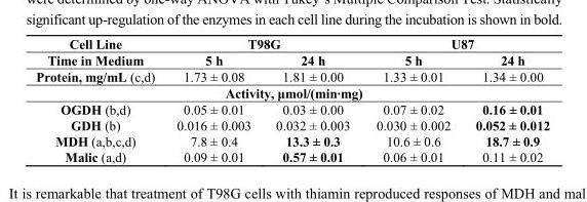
<table><thead><tr><td rowspan="2">Cell Line Time in Medium</td><td colspan="2">T98G</td><td colspan="2">U87</td></tr><tr><td>5 h</td><td>24 h</td><td>5 h</td><td>24 h</td></tr></thead><tbody><tr><td>Protein, mg/mL (c,d)</td><td>1.73 ± 0.08</td><td>1.81 ± 0.00</td><td>1.33 ± 0.01</td><td>1.34 ± 0.00</td></tr><tr><td colspan="5">Activity, μmol/(min·mg)</td></tr><tr><td>OGDH (b,d)</td><td>0.05 ± 0.01</td><td>0.03 ± 0.00</td><td>0.07 ± 0.02</td><td>0.16 ± 0.01</td></tr><tr><td>GDH (b)</td><td>0.016 ± 0.003</td><td>0.032 ± 0.003</td><td>0.030 ± 0.002</td><td>0.052 ± 0.012</td></tr><tr><td>MDH (a,b,c,d)</td><td>7.8 ± 0.4</td><td>13.3 ± 0.3</td><td>10.6 ± 0.6</td><td>18.7 ± 0.9</td></tr><tr><td>Malic (a,d)</td><td>0.09 ± 0.01</td><td>0.57 ± 0.01</td><td>0.06 ± 0.01</td><td>0.11 ± 0.02</td></tr></tbody></table>